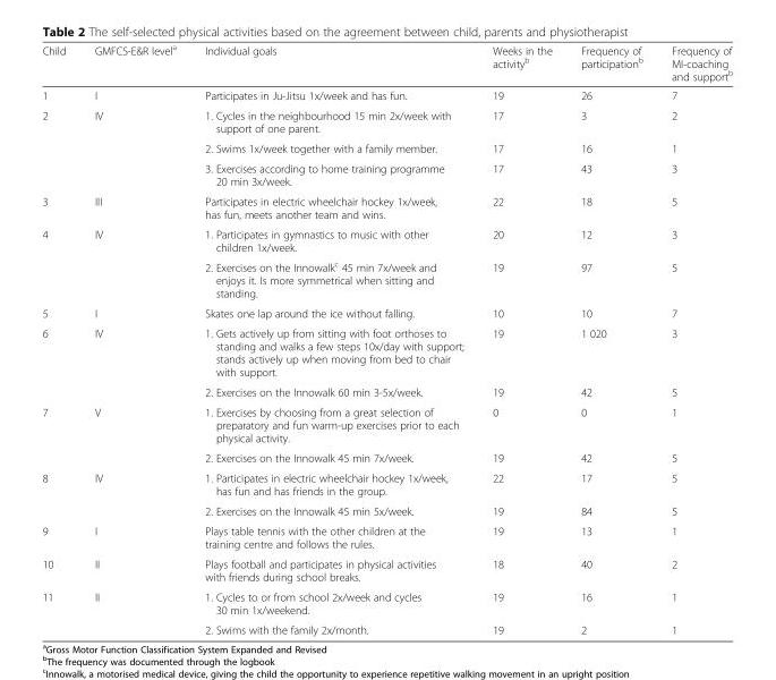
<table><thead><tr><td>Child</td><td>GMFCS-E&amp;R level<sup>a</sup></td><td>Individual goals</td><td>Weeks in the activity<sup>b</sup></td><td>Frequency of participation<sup>b</sup></td><td>Frequency of MI-coaching and support<sup>b</sup></td></tr></thead><tbody><tr><td>1</td><td>I</td><td>Participates in Ju-Jitsu 1x/week and has fun.</td><td>19</td><td>26</td><td>7</td></tr><tr><td rowspan="3">2</td><td rowspan="3">IV</td><td>1. Cycles in the neighbourhood 15 min 2x/week with support of one parent.</td><td>17</td><td>3</td><td>2</td></tr><tr><td>2. Swims 1x/week together with a family member.</td><td>17</td><td>16</td><td>1</td></tr><tr><td>3. Exercises according to home training programme 20 min 3x/week.</td><td>17</td><td>43</td><td>3</td></tr><tr><td>3</td><td>III</td><td>Participates in electric wheelchair hockey 1x/week, has fun, meets another team and wins.</td><td>22</td><td>18</td><td>5</td></tr><tr><td rowspan="2">4</td><td rowspan="2">IV</td><td>1. Participates in gymnastics to music with other children 1x/week.</td><td>20</td><td>12</td><td>3</td></tr><tr><td>2. Exercises on the Innowalk<sup>c</sup> 45 min 7x/week and enjoys it. Is more symmetrical when sitting and standing.</td><td>19</td><td>97</td><td>5</td></tr><tr><td>5</td><td>I</td><td>Skates one lap around the ice without falling.</td><td>10</td><td>10</td><td>7</td></tr><tr><td rowspan="2">6</td><td rowspan="2">IV</td><td>1. Gets actively up from sitting with foot orthoses to standing and walks a few steps 10x/day with support; stands actively up when moving from bed to chair with support.</td><td>19</td><td>1 020</td><td>3</td></tr><tr><td>2. Exercises on the Innowalk 60 min 3-5x/week.</td><td>19</td><td>42</td><td>5</td></tr><tr><td rowspan="2">7</td><td rowspan="2">V</td><td>1. Exercises by choosing from a great selection of preparatory and fun warm-up exercises prior to each physical activity.</td><td>0</td><td>0</td><td>1</td></tr><tr><td>2. Exercises on the Innowalk 45 min 7x/week.</td><td>19</td><td>42</td><td>5</td></tr><tr><td rowspan="2">8</td><td rowspan="2">IV</td><td>1. Participates in electric wheelchair hockey 1x/week, has fun and has friends in the group.</td><td>22</td><td>17</td><td>5</td></tr><tr><td>2. Exercises on the Innowalk 45 min 5x/week.</td><td>19</td><td>84</td><td>5</td></tr><tr><td>9</td><td>I</td><td>Plays table tennis with the other children at the training centre and follows the rules.</td><td>19</td><td>13</td><td>1</td></tr><tr><td>10</td><td>II</td><td>Plays football and participates in physical activities with friends during school breaks.</td><td>18</td><td>40</td><td>2</td></tr><tr><td rowspan="2">11</td><td rowspan="2">II</td><td>1. Cycles to or from school 2x/week and cycles 30 min 1x/weekend.</td><td>19</td><td>16</td><td>1</td></tr><tr><td>2. Swims with the family 2x/month.</td><td>19</td><td>2</td><td>1</td></tr></tbody></table>